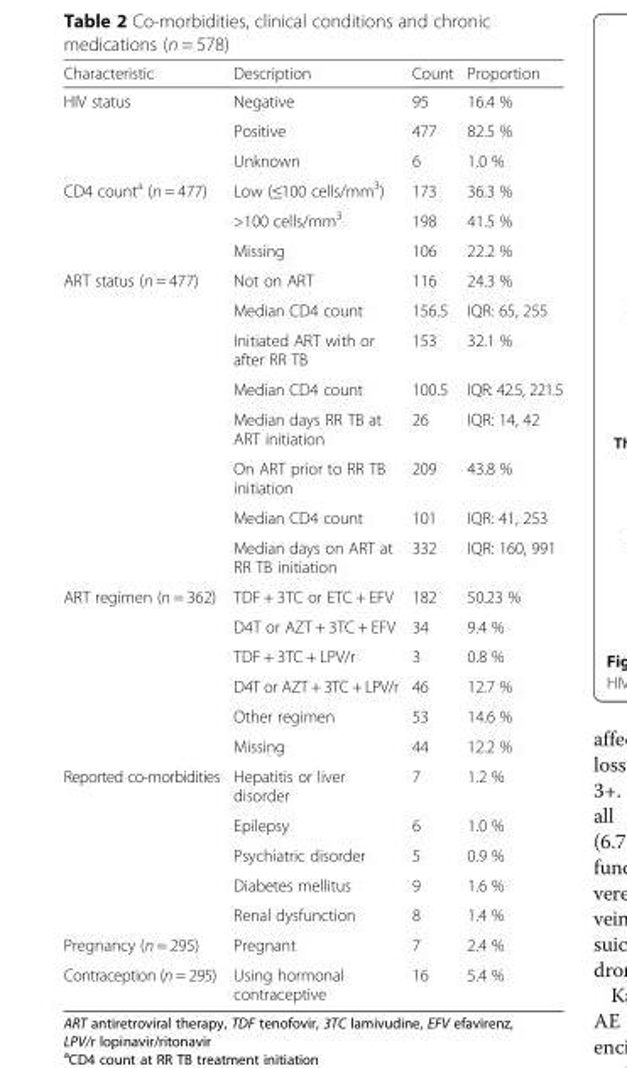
<table><thead><tr><td>Characteristic</td><td>Description</td><td>Count</td><td>Proportion</td></tr></thead><tbody><tr><td rowspan="3">HIV status</td><td>Negative</td><td>95</td><td>16.4 %</td></tr><tr><td>Positive</td><td>477</td><td>82.5 %</td></tr><tr><td>Unknown</td><td>6</td><td>1.0 %</td></tr><tr><td rowspan="3">CD4 count<sup>a</sup> (n = 477)</td><td>Low (≤100 cells/mm<sup>3</sup>)</td><td>173</td><td>36.3 %</td></tr><tr><td>&gt;100 cells/mm<sup>3</sup></td><td>198</td><td>41.5 %</td></tr><tr><td>Missing</td><td>106</td><td>22.2 %</td></tr><tr><td rowspan="8">ART status (n = 477)</td><td>Not on ART</td><td>116</td><td>24.3 %</td></tr><tr><td>Median CD4 count</td><td>156.5</td><td>IQR: 65, 255</td></tr><tr><td>Initiated ART with or after RR TB</td><td>153</td><td>32.1 %</td></tr><tr><td>Median CD4 count</td><td>100.5</td><td>IQR: 42.5, 221.5</td></tr><tr><td>Median days RR TB at ART initiation</td><td>26</td><td>IQR: 14, 42</td></tr><tr><td>On ART prior to RR TB initiation</td><td>209</td><td>43.8 %</td></tr><tr><td>Median CD4 count</td><td>101</td><td>IQR: 41, 253</td></tr><tr><td>Median days on ART at RR TB initiation</td><td>332</td><td>IQR: 160, 991</td></tr><tr><td rowspan="6">ART regimen (n = 362)</td><td>TDF + 3TC or ETC + EFV</td><td>182</td><td>50.23 %</td></tr><tr><td>D4T or AZT + 3TC + EFV</td><td>34</td><td>9.4 %</td></tr><tr><td>TDF + 3TC + LPV/r</td><td>3</td><td>0.8 %</td></tr><tr><td>D4T or AZT + 3TC + LPV/r</td><td>46</td><td>12.7 %</td></tr><tr><td>Other regimen</td><td>53</td><td>14.6 %</td></tr><tr><td>Missing</td><td>44</td><td>12.2 %</td></tr><tr><td rowspan="5">Reported co-morbidities</td><td>Hepatitis or liver disorder</td><td>7</td><td>1.2 %</td></tr><tr><td>Epilepsy</td><td>6</td><td>1.0 %</td></tr><tr><td>Psychiatric disorder</td><td>5</td><td>0.9 %</td></tr><tr><td>Diabetes mellitus</td><td>9</td><td>1.6 %</td></tr><tr><td>Renal dysfunction</td><td>8</td><td>1.4 %</td></tr><tr><td>Pregnancy (n = 295)</td><td>Pregnant</td><td>7</td><td>2.4 %</td></tr><tr><td>Contraception (n = 295)</td><td>Using hormonal contraceptive</td><td>16</td><td>5.4 %</td></tr></tbody></table>